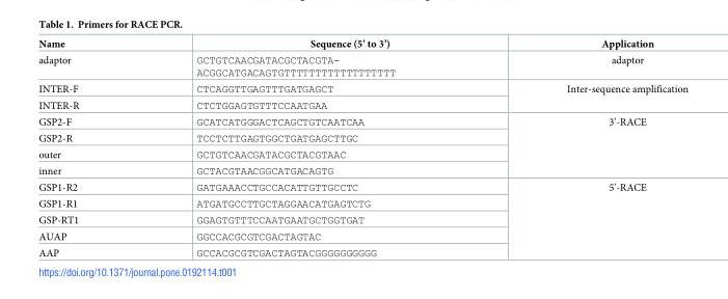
<table><thead><tr><td>Name</td><td>Sequence (5’ to 3’)</td><td>Application</td></tr></thead><tbody><tr><td>adaptor</td><td>GCTGTCAACGATACGCTACGTA- ACGGCATGACAGTGTTTTTTTTTTTTTTTTTT</td><td>adaptor</td></tr><tr><td>INTER-F</td><td>CTCAGGTTGAGTTTGATGAGCT</td><td rowspan="2">Inter-sequence amplification</td></tr><tr><td>INTER-R</td><td>CTCTGGAGTGTTTCCAATGAA</td></tr><tr><td>GSP2-F</td><td>GCATCATGGGACTCAGCTGTCAATCAA</td><td rowspan="4">3’-RACE</td></tr><tr><td>GSP2-R</td><td>TCCTCTTGAGTGGCTGATGAGCTTGC</td></tr><tr><td>outer</td><td>GCTGTCAACGATACGCTACGTAAC</td></tr><tr><td>inner</td><td>GCTACGTAACGGCATGACAGTG</td></tr><tr><td>GSP1-R2</td><td>GATGAAACCTGCCACATTGTTGCCTC</td><td rowspan="5">5’-RACE</td></tr><tr><td>GSP1-R1</td><td>ATGATGCCTTGCTAGGAACATGAGTCTG</td></tr><tr><td>GSP-RT1</td><td>GGAGTGTTTCCAATGAATGCTGGTGAT</td></tr><tr><td>AUAP</td><td>GGCCACGCGTCGACTAGTAC</td></tr><tr><td>AAP</td><td>GCCACGCGTCGACTAGTACGGGGGGGGGG</td></tr></tbody></table>